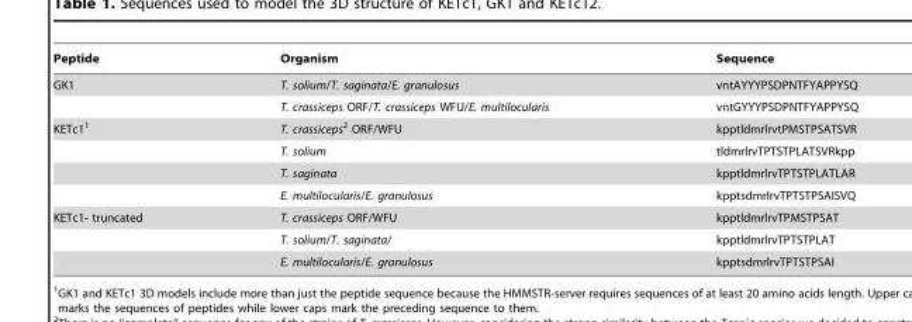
<table><thead><tr><td>Peptide</td><td>Organism</td><td>Sequence</td></tr></thead><tbody><tr><td rowspan="2">GK1</td><td>T. solium/T. saginata/E. granulosus</td><td>vntAYYYPSDPNTFYAPPYSQ</td></tr><tr><td>T. crassiceps ORF/T. crassiceps WFU/E. multilocularis</td><td>vntGYYYPSDPNTFYAPPYSQ</td></tr><tr><td rowspan="4">KETc1<sup>1</sup></td><td>T. crassiceps2 ORF/WFU</td><td>kpptldmrlrvtPMSTPSATSVR</td></tr><tr><td>T. solium</td><td>tldmrlrvTPTSTPLATSVRkpp</td></tr><tr><td>T. saginata</td><td>kpptldmrlrvTPTSTPLATLAR</td></tr><tr><td>E. multilocularis/E. granulosus</td><td>kpptsdmrlrvTPTSTPSAISVQ</td></tr><tr><td rowspan="3">KETc1- truncated</td><td>T. crassiceps ORF/WFU</td><td>kpptldmrlrvTPMSTPSAT</td></tr><tr><td>T. solium/T. saginata/</td><td>kpptldmrlrvTPTSTPLAT</td></tr><tr><td>E. multilocularis/E. granulosus</td><td>kpptsdmrlrvTPTSTPSAI</td></tr></tbody></table>